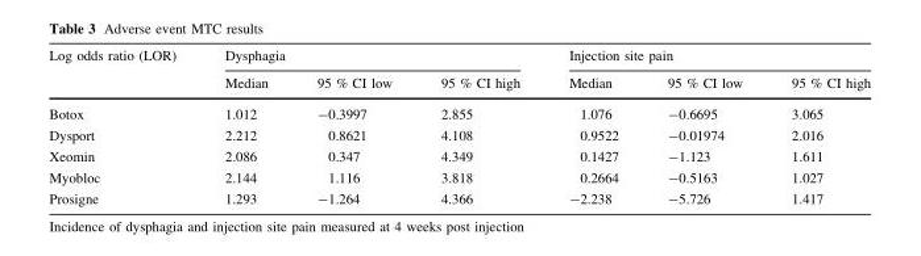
<table><thead><tr><td rowspan="2">Log odds ratio (LOR)</td><td colspan="3">Dysphagia</td><td colspan="3">Injection site pain</td></tr><tr><td>Median</td><td>95 % CI low</td><td>95 % CI high</td><td>Median</td><td>95 % CI low</td><td>95 % CI high</td></tr></thead><tbody><tr><td>Botox</td><td>1.012</td><td>-0.3997</td><td>2.855</td><td>1.076</td><td>-0.6695</td><td>3.065</td></tr><tr><td>Dysport</td><td>2.212</td><td>0.8621</td><td>4.108</td><td>0.9522</td><td>-0.01974</td><td>2.016</td></tr><tr><td>Xeomin</td><td>2.086</td><td>0.347</td><td>4.349</td><td>0.1427</td><td>-1.123</td><td>1.611</td></tr><tr><td>Myobloc</td><td>2.144</td><td>1.116</td><td>3.818</td><td>0.2664</td><td>-0.5163</td><td>1.027</td></tr><tr><td>Prosigne</td><td>1.293</td><td>-1.264</td><td>4.366</td><td>-2.238</td><td>-5.726</td><td>1.417</td></tr></tbody></table>